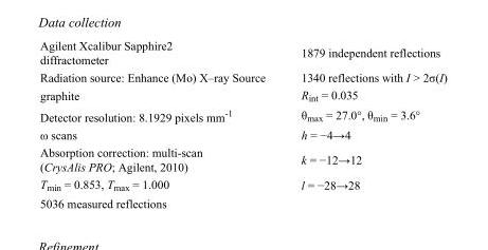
<table><tbody><tr><td>Agilent Xcalibur Sapphire2 diffractometer</td><td>1879 independent reflections</td></tr><tr><td>Radiation source: Enhance (Mo) X–ray Source</td><td>1340 reflections with I &gt; 2σ(I)</td></tr><tr><td>graphite</td><td>R<sub>int</sub> = 0.035</td></tr><tr><td>Detector resolution: 8.1929 pixels mm<sup>-1</sup></td><td>θ<sub>max</sub> = 27.0°, θ<sub>min</sub> = 3.6°</td></tr><tr><td>ω scans</td><td>h = −4→4</td></tr><tr><td>Absorption correction: multi-scan (CrysAlis PRO; Agilent, 2010)</td><td>k = −12→12</td></tr><tr><td>T<sub>min</sub> = 0.853, T<sub>max</sub> = 1.000</td><td>l = −28→28</td></tr><tr><td>5036 measured reflections</td><td></td></tr></tbody></table>